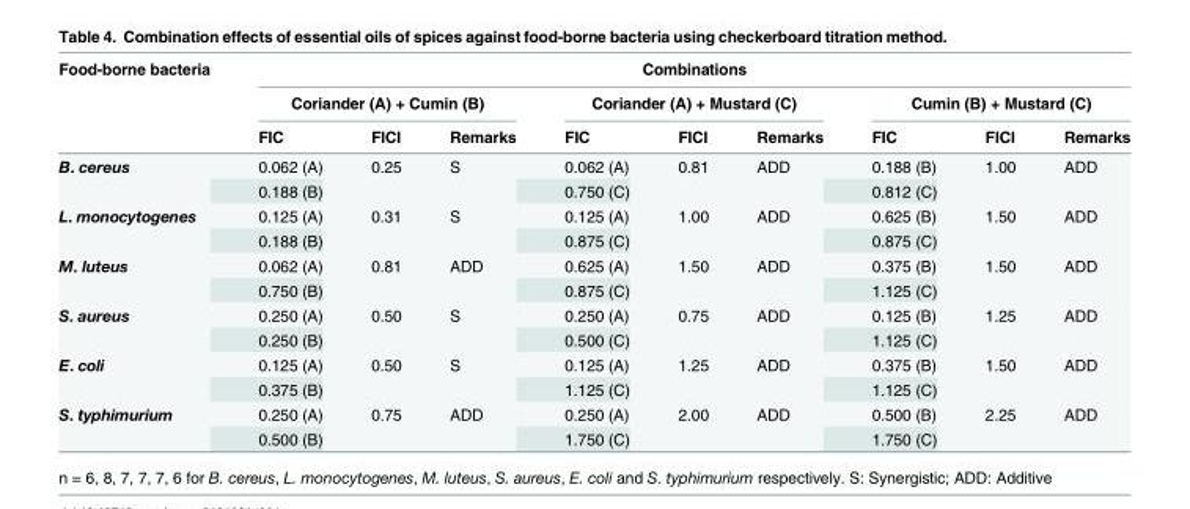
<table><thead><tr><td rowspan="3">Food-borne bacteria</td><td colspan="9">Combinations</td></tr><tr><td colspan="3">Coriander (A) + Cumin (B)</td><td colspan="3">Coriander (A) + Mustard (C)</td><td colspan="3">Cumin (B) + Mustard (C)</td></tr><tr><td>FIC</td><td>FICI</td><td>Remarks</td><td>FIC</td><td>FICI</td><td>Remarks</td><td>FIC</td><td>FICI</td><td>Remarks</td></tr></thead><tbody><tr><td rowspan="2">B. cereus</td><td>0.062 (A)</td><td rowspan="2">0.25</td><td rowspan="2">S</td><td>0.062 (A)</td><td rowspan="2">0.81</td><td rowspan="2">ADD</td><td>0.188 (B)</td><td rowspan="2">1.00</td><td rowspan="2">ADD</td></tr><tr><td>0.188 (B)</td><td>0.750 (C)</td><td>0.812 (C)</td></tr><tr><td rowspan="2">L. monocytogenes</td><td>0.125 (A)</td><td rowspan="2">0.31</td><td rowspan="2">S</td><td>0.125 (A)</td><td rowspan="2">1.00</td><td rowspan="2">ADD</td><td>0.625 (B)</td><td rowspan="2">1.50</td><td rowspan="2">ADD</td></tr><tr><td>0.188 (B)</td><td>0.875 (C)</td><td>0.875 (C)</td></tr><tr><td rowspan="2">M. luteus</td><td>0.062 (A)</td><td rowspan="2">0.81</td><td rowspan="2">ADD</td><td>0.625 (A)</td><td rowspan="2">1.50</td><td rowspan="2">ADD</td><td>0.375 (B)</td><td rowspan="2">1.50</td><td rowspan="2">ADD</td></tr><tr><td>0.750 (B)</td><td>0.875 (C)</td><td>1.125 (C)</td></tr><tr><td rowspan="2">S. aureus</td><td>0.250 (A)</td><td rowspan="2">0.50</td><td rowspan="2">S</td><td>0.250 (A)</td><td rowspan="2">0.75</td><td rowspan="2">ADD</td><td>0.125 (B)</td><td rowspan="2">1.25</td><td rowspan="2">ADD</td></tr><tr><td>0.250 (B)</td><td>0.500 (C)</td><td>1.125 (C)</td></tr><tr><td rowspan="2">E. coli</td><td>0.125 (A)</td><td rowspan="2">0.50</td><td rowspan="2">S</td><td>0.125 (A)</td><td rowspan="2">1.25</td><td rowspan="2">ADD</td><td>0.375 (B)</td><td rowspan="2">1.50</td><td rowspan="2">ADD</td></tr><tr><td>0.375 (B)</td><td>1.125 (C)</td><td>1.125 (C)</td></tr><tr><td rowspan="2">S. typhimurium</td><td>0.250 (A)</td><td rowspan="2">0.75</td><td rowspan="2">ADD</td><td>0.250 (A)</td><td rowspan="2">2.00</td><td rowspan="2">ADD</td><td>0.500 (B)</td><td rowspan="2">2.25</td><td rowspan="2">ADD</td></tr><tr><td>0.500 (B)</td><td>1.750 (C)</td><td>1.750 (C)</td></tr></tbody></table>